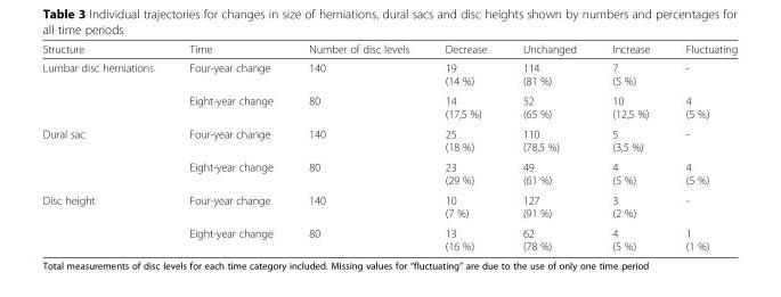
<table><thead><tr><td>Structure</td><td>Time</td><td>Number of disc levels</td><td>Decrease</td><td>Unchanged</td><td>Increase</td><td>Fluctuating</td></tr></thead><tbody><tr><td rowspan="2">Lumbar disc herniations</td><td>Four-year change</td><td>140</td><td>19 (14 %)</td><td>114 (81 %)</td><td>7 (5 %)</td><td>-</td></tr><tr><td>Eight-year change</td><td>80</td><td>14 (17,5 %)</td><td>52 (65 %)</td><td>10 (12,5 %)</td><td>4 (5 %)</td></tr><tr><td rowspan="2">Dural sac</td><td>Four-year change</td><td>140</td><td>25 (18 %)</td><td>110 (78,5 %)</td><td>5 (3,5 %)</td><td>-</td></tr><tr><td>Eight-year change</td><td>80</td><td>23 (29 %)</td><td>49 (61 %)</td><td>4 (5 %)</td><td>4 (5 %)</td></tr><tr><td rowspan="2">Disc height</td><td>Four-year change</td><td>140</td><td>10 (7 %)</td><td>127 (91 %)</td><td>3 (2 %)</td><td>-</td></tr><tr><td>Eight-year change</td><td>80</td><td>13 (16 %)</td><td>62 (78 %)</td><td>4 (5 %)</td><td>1 (1 %)</td></tr></tbody></table>